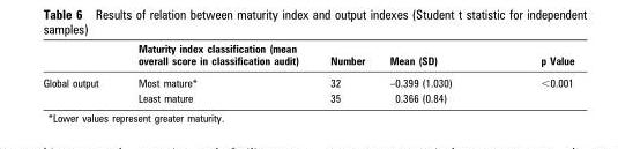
<table><thead><tr><td></td><td>Maturity index classification (mean overall score in classification audit)</td><td>Number</td><td>Mean (SD)</td><td>p Value</td></tr></thead><tbody><tr><td rowspan="2">Global output</td><td>Most mature*</td><td>32</td><td>–0.399 (1.030)</td><td rowspan="2">&lt;0.001</td></tr><tr><td>Least mature</td><td>35</td><td>0.366 (0.84)</td></tr></tbody></table>